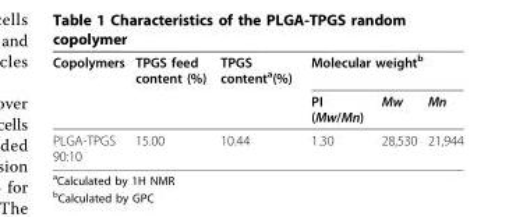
<table><thead><tr><td rowspan="2">Copolymers</td><td rowspan="2">TPGS feed content (%)</td><td rowspan="2">TPGS content<sup>a</sup>(%)</td><td colspan="3">Molecular weight<sup>b</sup></td></tr><tr><td>PI (Mw/Mn)</td><td>Mw</td><td>Mn</td></tr></thead><tbody><tr><td>PLGA-TPGS 90:10</td><td>15.00</td><td>10.44</td><td>1.30</td><td>28,530</td><td>21,944</td></tr></tbody></table>